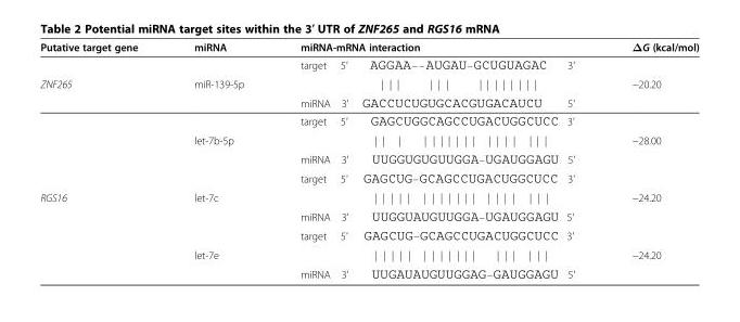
<table><thead><tr><td>Putative target gene</td><td>miRNA</td><td>miRNA-mRNA interaction</td><td>ΔG (kcal/mol)</td></tr></thead><tbody><tr><td rowspan="3">ZNF265</td><td rowspan="3">miR-139-5p</td><td>target 5′ AGGAA––AUGAU–GCUGUAGAC 3′</td><td rowspan="3">−20.20</td></tr><tr><td>| | | | | | | | | | | | | |</td></tr><tr><td>miRNA 3′ GACCUCUGUGCACGUGACAUCU 5′</td></tr><tr><td rowspan="9">RGS16</td><td rowspan="3">let-7b-5p</td><td>target 5′ GAGCUGGCAGCCUGACUGGCUCC 3′</td><td rowspan="3">−28.00</td></tr><tr><td>| | | | | | | | | | | | | | | | |</td></tr><tr><td>miRNA 3′ UUGGUGUGUUGGA–UGAUGGAGU 5′</td></tr><tr><td rowspan="3">let-7c</td><td>target 5′ GAGCUG–GCAGCCUGACUGGCUCC 3′</td><td rowspan="3">−24.20</td></tr><tr><td>| | | | | | | | | | | | | | | | | | |</td></tr><tr><td>miRNA 3′ UUGGUAUGUUGGA–UGAUGGAGU 5′</td></tr><tr><td rowspan="3">let-7e</td><td>target 5′ GAGCUG–GCAGCCUGACUGGCUCC 3′</td><td rowspan="3">−24.20</td></tr><tr><td>| | | | | | | | | | | | | | | | | |</td></tr><tr><td>miRNA 3′ UUGAUAUGUUGGAG–GAUGGAGU 5′</td></tr></tbody></table>